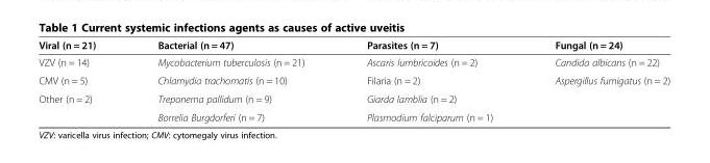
<table><thead><tr><td>Viral (n = 21)</td><td>Bacterial (n = 47)</td><td>Parasites (n = 7)</td><td>Fungal (n = 24)</td></tr></thead><tbody><tr><td>VZV (n = 14)</td><td>Mycobacterium tuberculosis (n = 21)</td><td>Ascaris lumbricoides (n = 2)</td><td>Candida albicans (n = 22)</td></tr><tr><td>CMV (n = 5)</td><td>Chlamydia trachomatis (n = 10)</td><td>Filaria (n = 2)</td><td>Aspergillus fumigatus (n = 2)</td></tr><tr><td rowspan="2">Other (n = 2)</td><td>Treponema pallidum (n = 9)</td><td>Giarda lamblia (n = 2)</td><td></td></tr><tr><td>Borrelia Burgdorferi (n = 7)</td><td>Plasmodium falciparum (n = 1)</td><td></td></tr></tbody></table>